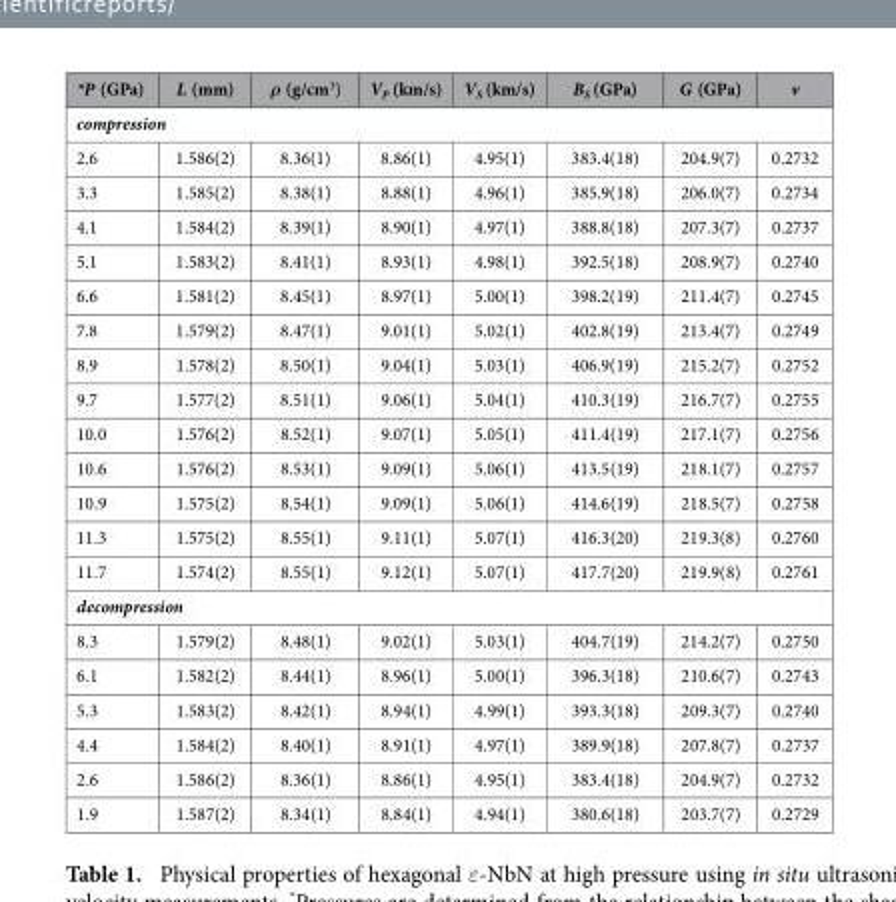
<table><thead><tr><td>*P (GPa)</td><td>L (mm)</td><td>ρ (g/cm<sup>3</sup>)</td><td>V<sub>P</sub> (km/s)</td><td>V<sub>S</sub> (km/s)</td><td>B<sub>S</sub> (GPa)</td><td>G (GPa)</td><td>v</td></tr></thead><tbody><tr><td colspan="8">compression</td></tr><tr><td>2.6</td><td>1.586(2)</td><td>8.36(1)</td><td>8.86(1)</td><td>4.95(1)</td><td>383.4(18)</td><td>204.9(7)</td><td>0.2732</td></tr><tr><td>3.3</td><td>1.585(2)</td><td>8.38(1)</td><td>8.88(1)</td><td>4.96(1)</td><td>385.9(18)</td><td>206.0(7)</td><td>0.2734</td></tr><tr><td>4.1</td><td>1.584(2)</td><td>8.39(1)</td><td>8.90(1)</td><td>4.97(1)</td><td>388.8(18)</td><td>207.3(7)</td><td>0.2737</td></tr><tr><td>5.1</td><td>1.583(2)</td><td>8.41(1)</td><td>8.93(1)</td><td>4.98(1)</td><td>392.5(18)</td><td>208.9(7)</td><td>0.2740</td></tr><tr><td>6.6</td><td>1.581(2)</td><td>8.45(1)</td><td>8.97(1)</td><td>5.00(1)</td><td>398.2(19)</td><td>211.4(7)</td><td>0.2745</td></tr><tr><td>7.8</td><td>1.579(2)</td><td>8.47(1)</td><td>9.01(1)</td><td>5.02(1)</td><td>402.8(19)</td><td>213.4(7)</td><td>0.2749</td></tr><tr><td>8.9</td><td>1.578(2)</td><td>8.50(1)</td><td>9.04(1)</td><td>5.03(1)</td><td>406.9(19)</td><td>215.2(7)</td><td>0.2752</td></tr><tr><td>9.7</td><td>1.577(2)</td><td>8.51(1)</td><td>9.06(1)</td><td>5.04(1)</td><td>410.3(19)</td><td>216.7(7)</td><td>0.2755</td></tr><tr><td>10.0</td><td>1.576(2)</td><td>8.52(1)</td><td>9.07(1)</td><td>5.05(1)</td><td>411.4(19)</td><td>217.1(7)</td><td>0.2756</td></tr><tr><td>10.6</td><td>1.576(2)</td><td>8.53(1)</td><td>9.09(1)</td><td>5.06(1)</td><td>413.5(19)</td><td>218.1(7)</td><td>0.2757</td></tr><tr><td>10.9</td><td>1.575(2)</td><td>8.54(1)</td><td>9.09(1)</td><td>5.06(1)</td><td>414.6(19)</td><td>218.5(7)</td><td>0.2758</td></tr><tr><td>11.3</td><td>1.575(2)</td><td>8.55(1)</td><td>9.11(1)</td><td>5.07(1)</td><td>416.3(20)</td><td>219.3(8)</td><td>0.2760</td></tr><tr><td>11.7</td><td>1.574(2)</td><td>8.55(1)</td><td>9.12(1)</td><td>5.07(1)</td><td>417.7(20)</td><td>219.9(8)</td><td>0.2761</td></tr><tr><td colspan="8">decompression</td></tr><tr><td>8.3</td><td>1.579(2)</td><td>8.48(1)</td><td>9.02(1)</td><td>5.03(1)</td><td>404.7(19)</td><td>214.2(7)</td><td>0.2750</td></tr><tr><td>6.1</td><td>1.582(2)</td><td>8.44(1)</td><td>8.96(1)</td><td>5.00(1)</td><td>396.3(18)</td><td>210.6(7)</td><td>0.2743</td></tr><tr><td>5.3</td><td>1.583(2)</td><td>8.42(1)</td><td>8.94(1)</td><td>4.99(1)</td><td>393.3(18)</td><td>209.3(7)</td><td>0.2740</td></tr><tr><td>4.4</td><td>1.584(2)</td><td>8.40(1)</td><td>8.91(1)</td><td>4.97(1)</td><td>389.9(18)</td><td>207.8(7)</td><td>0.2737</td></tr><tr><td>2.6</td><td>1.586(2)</td><td>8.36(1)</td><td>8.86(1)</td><td>4.95(1)</td><td>383.4(18)</td><td>204.9(7)</td><td>0.2732</td></tr><tr><td>1.9</td><td>1.587(2)</td><td>8.34(1)</td><td>8.84(1)</td><td>4.94(1)</td><td>380.6(18)</td><td>203.7(7)</td><td>0.2729</td></tr></tbody></table>